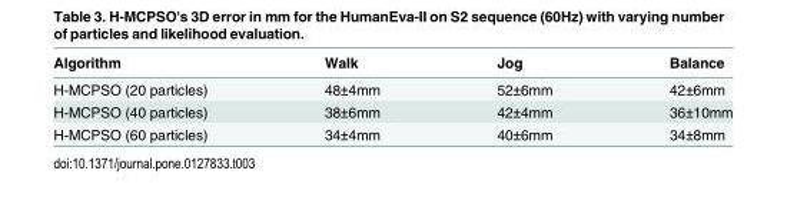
<table><thead><tr><td>Algorithm</td><td>Walk</td><td>Jog</td><td>Balance</td></tr></thead><tbody><tr><td>H-MCPSO (20 particles)</td><td>48±4mm</td><td>52±6mm</td><td>42±6mm</td></tr><tr><td>H-MCPSO (40 particles)</td><td>38±6mm</td><td>42±4mm</td><td>36±10mm</td></tr><tr><td>H-MCPSO (60 particles)</td><td>34±4mm</td><td>40±6mm</td><td>34±8mm</td></tr></tbody></table>